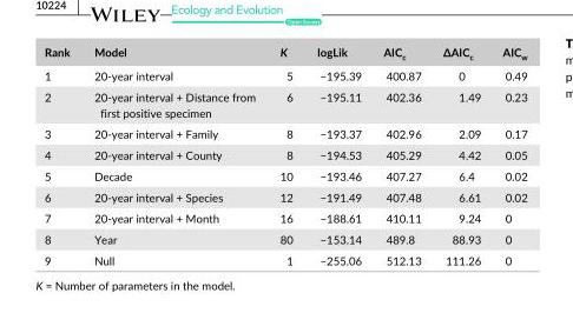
<table><thead><tr><td>Rank</td><td>Model</td><td>K</td><td>logLik</td><td>AIC<sub>c</sub></td><td>∆AIC<sub>c</sub></td><td>AIC<sub>w</sub></td></tr></thead><tbody><tr><td>1</td><td>20- year interval</td><td>5</td><td>−195.39</td><td>400.87</td><td>0</td><td>0.49</td></tr><tr><td>2</td><td>20- year interval + Distance from first positive specimen</td><td>6</td><td>−195.11</td><td>402.36</td><td>1.49</td><td>0.23</td></tr><tr><td>3</td><td>20- year interval + Family</td><td>8</td><td>−193.37</td><td>402.96</td><td>2.09</td><td>0.17</td></tr><tr><td>4</td><td>20- year interval + County</td><td>8</td><td>−194.53</td><td>405.29</td><td>4.42</td><td>0.05</td></tr><tr><td>5</td><td>Decade</td><td>10</td><td>−193.46</td><td>407.27</td><td>6.4</td><td>0.02</td></tr><tr><td>6</td><td>20- year interval + Species</td><td>12</td><td>−191.49</td><td>407.48</td><td>6.61</td><td>0.02</td></tr><tr><td>7</td><td>20- year interval + Month</td><td>16</td><td>−188.61</td><td>410.11</td><td>9.24</td><td>0</td></tr><tr><td>8</td><td>Year</td><td>80</td><td>−153.14</td><td>489.8</td><td>88.93</td><td>0</td></tr><tr><td>9</td><td>Null</td><td>1</td><td>−255.06</td><td>512.13</td><td>111.26</td><td>0</td></tr></tbody></table>